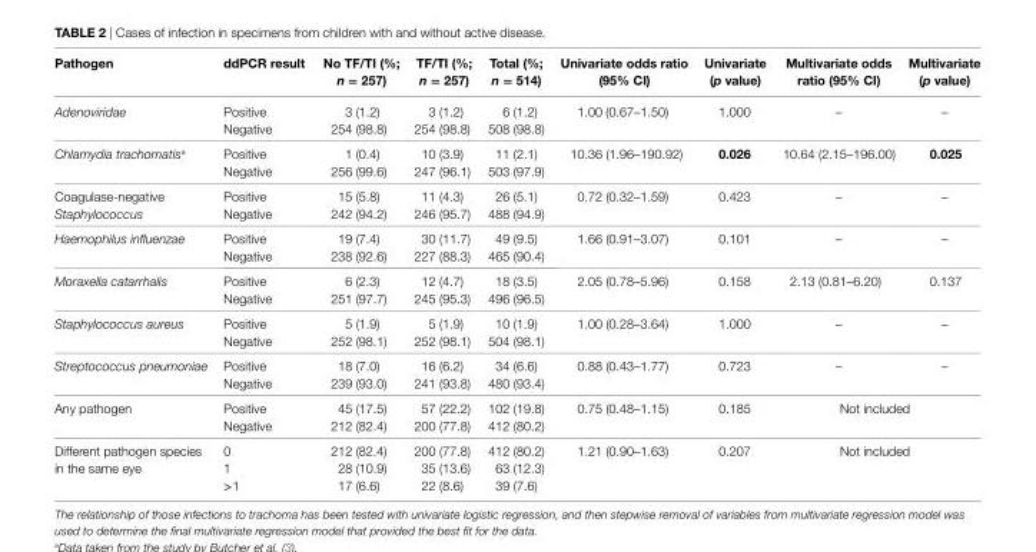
<table><thead><tr><td>Pathogen</td><td>ddPcr result</td><td>no TF/Ti (%; n = 257)</td><td>TF/Ti (%; n = 257)</td><td>Total (%; n = 514)</td><td>Univariate odds ratio (95% ci)</td><td>Univariate (p value)</td><td>Multivariate odds ratio (95% ci)</td><td>Multivariate (p value)</td></tr></thead><tbody><tr><td rowspan="2">Adenoviridae</td><td>Positive</td><td>3 (1.2)</td><td>3 (1.2)</td><td>6 (1.2)</td><td rowspan="2">1.00 (0.67–1.50)</td><td rowspan="2">1.000</td><td rowspan="2">–</td><td rowspan="2">–</td></tr><tr><td>Negative</td><td>254 (98.8)</td><td>254 (98.8)</td><td>508 (98.8)</td></tr><tr><td rowspan="2">Chlamydia trachomatis<sup>a</sup></td><td>Positive</td><td>1 (0.4)</td><td>10 (3.9)</td><td>11 (2.1)</td><td rowspan="2">10.36 (1.96–190.92)</td><td rowspan="2">0.026</td><td rowspan="2">10.64 (2.15–196.00)</td><td rowspan="2">0.025</td></tr><tr><td>Negative</td><td>256 (99.6)</td><td>247 (96.1)</td><td>503 (97.9)</td></tr><tr><td rowspan="2">Coagulase-negative Staphylococcus</td><td>Positive</td><td>15 (5.8)</td><td>11 (4.3)</td><td>26 (5.1)</td><td rowspan="2">0.72 (0.32–1.59)</td><td rowspan="2">0.423</td><td rowspan="2">–</td><td rowspan="2">–</td></tr><tr><td>Negative</td><td>242 (94.2)</td><td>246 (95.7)</td><td>488 (94.9)</td></tr><tr><td rowspan="2">Haemophilus influenzae</td><td>Positive</td><td>19 (7.4)</td><td>30 (11.7)</td><td>49 (9.5)</td><td rowspan="2">1.66 (0.91–3.07)</td><td rowspan="2">0.101</td><td rowspan="2">–</td><td rowspan="2">–</td></tr><tr><td>Negative</td><td>238 (92.6)</td><td>227 (88.3)</td><td>465 (90.4)</td></tr><tr><td rowspan="2">Moraxella catarrhalis</td><td>Positive</td><td>6 (2.3)</td><td>12 (4.7)</td><td>18 (3.5)</td><td rowspan="2">2.05 (0.78–5.96)</td><td rowspan="2">0.158</td><td rowspan="2">2.13 (0.81–6.20)</td><td rowspan="2">0.137</td></tr><tr><td>Negative</td><td>251 (97.7)</td><td>245 (95.3)</td><td>496 (96.5)</td></tr><tr><td rowspan="2">Staphylococcus aureus</td><td>Positive</td><td>5 (1.9)</td><td>5 (1.9)</td><td>10 (1.9)</td><td rowspan="2">1.00 (0.28–3.64)</td><td rowspan="2">1.000</td><td rowspan="2">–</td><td rowspan="2">–</td></tr><tr><td>Negative</td><td>252 (98.1)</td><td>252 (98.1)</td><td>504 (98.1)</td></tr><tr><td rowspan="2">Streptococcus pneumoniae</td><td>Positive</td><td>18 (7.0)</td><td>16 (6.2)</td><td>34 (6.6)</td><td rowspan="2">0.88 (0.43–1.77)</td><td rowspan="2">0.723</td><td rowspan="2">–</td><td rowspan="2">–</td></tr><tr><td>Negative</td><td>239 (93.0)</td><td>241 (93.8)</td><td>480 (93.4)</td></tr><tr><td rowspan="2">Any pathogen</td><td>Positive</td><td>45 (17.5)</td><td>57 (22.2)</td><td>102 (19.8)</td><td rowspan="2">0.75 (0.48–1.15)</td><td rowspan="2">0.185</td><td rowspan="2" colspan="2">Not included</td></tr><tr><td>Negative</td><td>212 (82.4)</td><td>200 (77.8)</td><td>412 (80.2)</td></tr><tr><td rowspan="3">Different pathogen species in the same eye</td><td>0</td><td>212 (82.4)</td><td>200 (77.8)</td><td>412 (80.2)</td><td rowspan="3">1.21 (0.90–1.63)</td><td rowspan="3">0.207</td><td rowspan="3" colspan="2">Not included</td></tr><tr><td>1</td><td>28 (10.9)</td><td>35 (13.6)</td><td>63 (12.3)</td></tr><tr><td>&gt;1</td><td>17 (6.6)</td><td>22 (8.6)</td><td>39 (7.6)</td></tr></tbody></table>